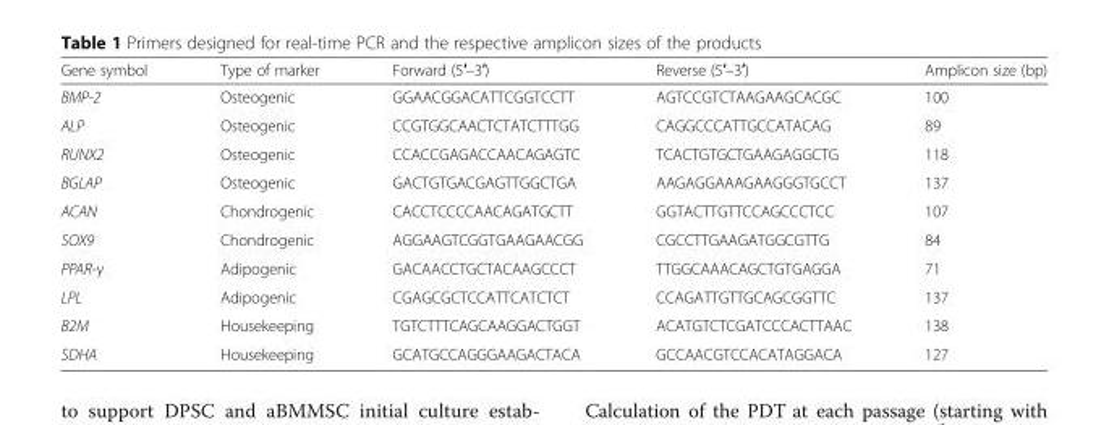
<table><thead><tr><td>Gene symbol</td><td>Type of marker</td><td>Forward (5′–3′)</td><td>Reverse (5′–3′)</td><td>Amplicon size (bp)</td></tr></thead><tbody><tr><td>BMP-2</td><td>Osteogenic</td><td>GGAACGGACATTCGGTCCTT</td><td>AGTCCGTCTAAGAAGCACGC</td><td>100</td></tr><tr><td>ALP</td><td>Osteogenic</td><td>CCGTGGCAACTCTATCTTTGG</td><td>CAGGCCCATTGCCATACAG</td><td>89</td></tr><tr><td>RUNX2</td><td>Osteogenic</td><td>CCACCGAGACCAACAGAGTC</td><td>TCACTGTGCTGAAGAGGCTG</td><td>118</td></tr><tr><td>BGLAP</td><td>Osteogenic</td><td>GACTGTGACGAGTTGGCTGA</td><td>AAGAGGAAAGAAGGGTGCCT</td><td>137</td></tr><tr><td>ACAN</td><td>Chondrogenic</td><td>CACCTCCCCAACAGATGCTT</td><td>GGTACTTGTTCCAGCCCTCC</td><td>107</td></tr><tr><td>SOX9</td><td>Chondrogenic</td><td>AGGAAGTCGGTGAAGAACGG</td><td>CGCCTTGAAGATGGCGTTG</td><td>84</td></tr><tr><td>PPAR-γ</td><td>Adipogenic</td><td>GACAACCTGCTACAAGCCCT</td><td>TTGGCAAACAGCTGTGAGGA</td><td>71</td></tr><tr><td>LPL</td><td>Adipogenic</td><td>CGAGCGCTCCATTCATCTCT</td><td>CCAGATTGTTGCAGCGGTTC</td><td>137</td></tr><tr><td>B2M</td><td>Housekeeping</td><td>TGTCTTTCAGCAAGGACTGGT</td><td>ACATGTCTCGATCCCACTTAAC</td><td>138</td></tr><tr><td>SDHA</td><td>Housekeeping</td><td>GCATGCCAGGGAAGACTACA</td><td>GCCAACGTCCACATAGGACA</td><td>127</td></tr></tbody></table>